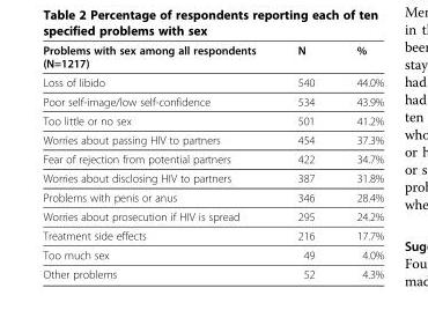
<table><thead><tr><td>Problems with sex among all respondents (N=1217)</td><td>N</td><td>%</td></tr></thead><tbody><tr><td>Loss of libido</td><td>540</td><td>44.0%</td></tr><tr><td>Poor self-image/low self-confidence</td><td>534</td><td>43.9%</td></tr><tr><td>Too little or no sex</td><td>501</td><td>41.2%</td></tr><tr><td>Worries about passing HIV to partners</td><td>454</td><td>37.3%</td></tr><tr><td>Fear of rejection from potential partners</td><td>422</td><td>34.7%</td></tr><tr><td>Worries about disclosing HIV to partners</td><td>387</td><td>31.8%</td></tr><tr><td>Problems with penis or anus</td><td>346</td><td>28.4%</td></tr><tr><td>Worries about prosecution if HIV is spread</td><td>295</td><td>24.2%</td></tr><tr><td>Treatment side effects</td><td>216</td><td>17.7%</td></tr><tr><td>Too much sex</td><td>49</td><td>4.0%</td></tr><tr><td>Other problems</td><td>52</td><td>4.3%</td></tr></tbody></table>